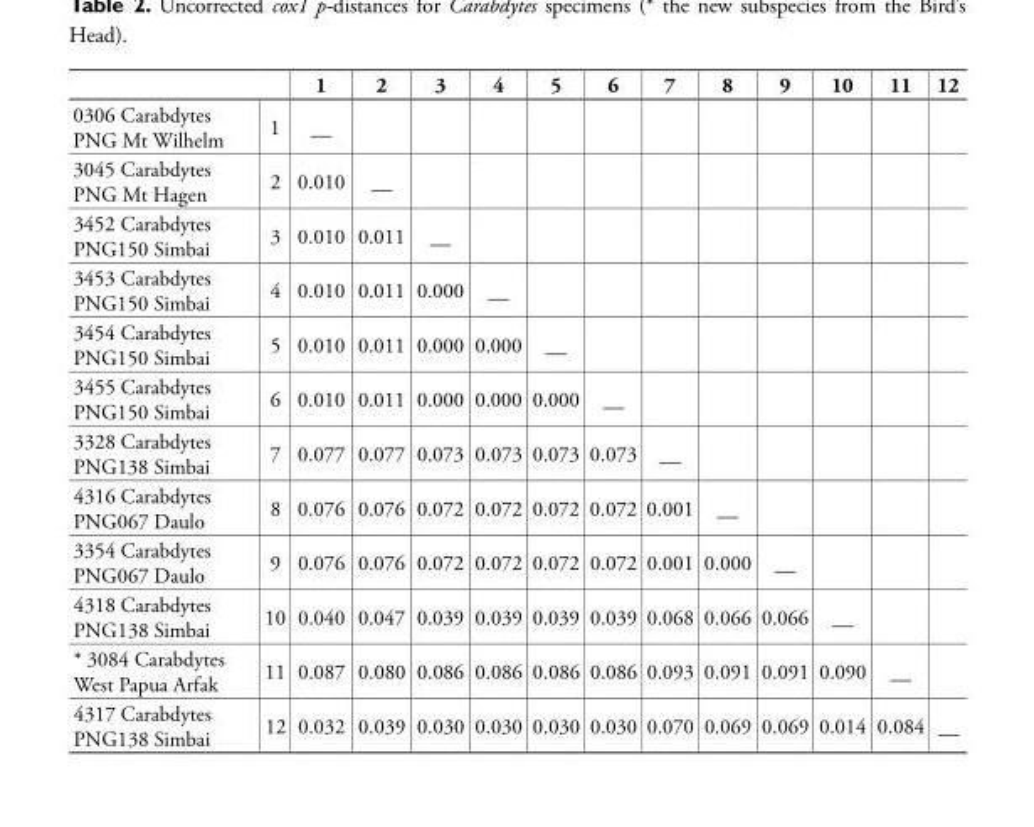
<table><thead><tr><td></td><td></td><td>1</td><td>2</td><td>3</td><td>4</td><td>5</td><td>6</td><td>7</td><td>8</td><td>9</td><td>10</td><td>11</td><td>12</td></tr></thead><tbody><tr><td>0306 Carabdytes PNG Mt Wilhelm</td><td>1</td><td>__</td><td></td><td></td><td></td><td></td><td></td><td></td><td></td><td></td><td></td><td></td><td></td></tr><tr><td>3045 Carabdytes PNG Mt Hagen</td><td>2</td><td>0.010</td><td>__</td><td></td><td></td><td></td><td></td><td></td><td></td><td></td><td></td><td></td><td></td></tr><tr><td>3452 Carabdytes PNG150 Simbai</td><td>3</td><td>0.010</td><td>0.011</td><td>__</td><td></td><td></td><td></td><td></td><td></td><td></td><td></td><td></td><td></td></tr><tr><td>3453 Carabdytes PNG150 Simbai</td><td>4</td><td>0.010</td><td>0.011</td><td>0.000</td><td>__</td><td></td><td></td><td></td><td></td><td></td><td></td><td></td><td></td></tr><tr><td>3454 Carabdytes PNG150 Simbai</td><td>5</td><td>0.010</td><td>0.011</td><td>0.000</td><td>0.000</td><td>__</td><td></td><td></td><td></td><td></td><td></td><td></td><td></td></tr><tr><td>3455 Carabdytes PNG150 Simbai</td><td>6</td><td>0.010</td><td>0.011</td><td>0.000</td><td>0.000</td><td>0.000</td><td>__</td><td></td><td></td><td></td><td></td><td></td><td></td></tr><tr><td>3328 Carabdytes PNG138 Simbai</td><td>7</td><td>0.077</td><td>0.077</td><td>0.073</td><td>0.073</td><td>0.073</td><td>0.073</td><td>__</td><td></td><td></td><td></td><td></td><td></td></tr><tr><td>4316 Carabdytes PNG067 Daulo</td><td>8</td><td>0.076</td><td>0.076</td><td>0.072</td><td>0.072</td><td>0.072</td><td>0.072</td><td>0.001</td><td>__</td><td></td><td></td><td></td><td></td></tr><tr><td>3354 Carabdytes PNG067 Daulo</td><td>9</td><td>0.076</td><td>0.076</td><td>0.072</td><td>0.072</td><td>0.072</td><td>0.072</td><td>0.001</td><td>0.000</td><td>__</td><td></td><td></td><td></td></tr><tr><td>4318 Carabdytes PNG138 Simbai</td><td>10</td><td>0.040</td><td>0.047</td><td>0.039</td><td>0.039</td><td>0.039</td><td>0.039</td><td>0.068</td><td>0.066</td><td>0.066</td><td>__</td><td></td><td></td></tr><tr><td>* 3084 Carabdytes West Papua Arfak</td><td>11</td><td>0.087</td><td>0.080</td><td>0.086</td><td>0.086</td><td>0.086</td><td>0.086</td><td>0.093</td><td>0.091</td><td>0.091</td><td>0.090</td><td>__</td><td></td></tr><tr><td>4317 Carabdytes PNG138 Simbai</td><td>12</td><td>0.032</td><td>0.039</td><td>0.030</td><td>0.030</td><td>0.030</td><td>0.030</td><td>0.070</td><td>0.069</td><td>0.069</td><td>0.014</td><td>0.084</td><td>__</td></tr></tbody></table>